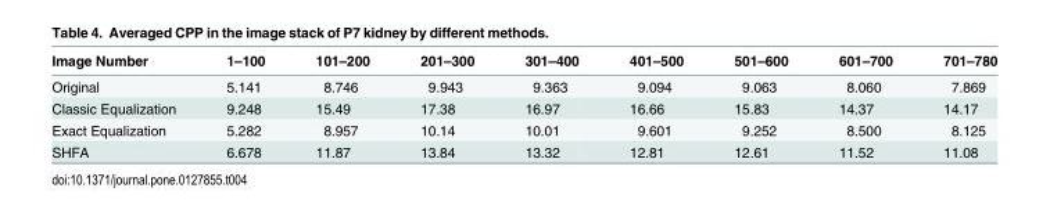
<table><thead><tr><td>Image Number</td><td>1–100</td><td>101–200</td><td>201–300</td><td>301–400</td><td>401–500</td><td>501–600</td><td>601–700</td><td>701–780</td></tr></thead><tbody><tr><td>Original</td><td>5.141</td><td>8.746</td><td>9.943</td><td>9.363</td><td>9.094</td><td>9.063</td><td>8.060</td><td>7.869</td></tr><tr><td>Classic Equalization</td><td>9.248</td><td>15.49</td><td>17.38</td><td>16.97</td><td>16.66</td><td>15.83</td><td>14.37</td><td>14.17</td></tr><tr><td>Exact Equalization</td><td>5.282</td><td>8.957</td><td>10.14</td><td>10.01</td><td>9.601</td><td>9.252</td><td>8.500</td><td>8.125</td></tr><tr><td>SHFA</td><td>6.678</td><td>11.87</td><td>13.84</td><td>13.32</td><td>12.81</td><td>12.61</td><td>11.52</td><td>11.08</td></tr></tbody></table>